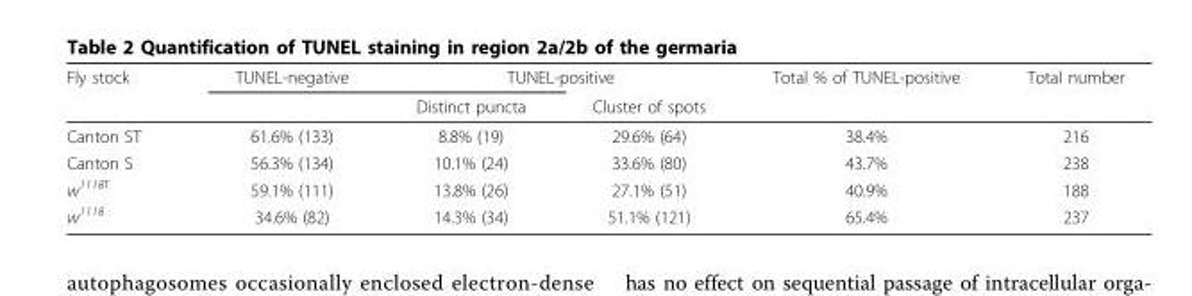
<table><thead><tr><td rowspan="2">Fly stock</td><td rowspan="2">TUNEL-negative</td><td colspan="2">TUNEL-positive</td><td rowspan="2">Total % of TUNEL-positive</td><td rowspan="2">Total number</td></tr><tr><td>Distinct puncta</td><td>Cluster of spots</td></tr></thead><tbody><tr><td>Canton ST</td><td>61.6% (133)</td><td>8.8% (19)</td><td>29.6% (64)</td><td>38.4%</td><td>216</td></tr><tr><td>Canton S</td><td>56.3% (134)</td><td>10.1% (24)</td><td>33.6% (80)</td><td>43.7%</td><td>238</td></tr><tr><td>w<sup>1118T</sup></td><td>59.1% (111)</td><td>13.8% (26)</td><td>27.1% (51)</td><td>40.9%</td><td>188</td></tr><tr><td>w<sup>1118</sup></td><td>34.6% (82)</td><td>14.3% (34)</td><td>51.1% (121)</td><td>65.4%</td><td>237</td></tr></tbody></table>